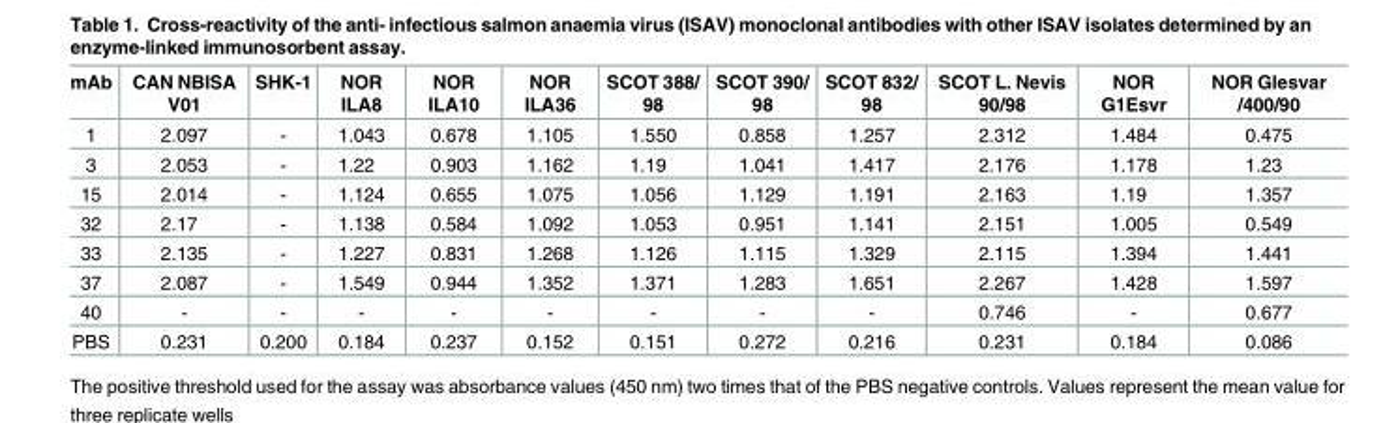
<table><thead><tr><td>mAb</td><td>CAN NBISA V01</td><td>SHK-1</td><td>NOR ILA8</td><td>NOR ILA10</td><td>NOR ILA36</td><td>SCOT 388/ 98</td><td>SCOT 390/ 98</td><td>SCOT 832/ 98</td><td>SCOT L. Nevis 90/98</td><td>NOR G1Esvr</td><td>NOR Glesvar /400/90</td></tr></thead><tbody><tr><td>1</td><td>2.097</td><td>-</td><td>1.043</td><td>0.678</td><td>1.105</td><td>1.550</td><td>0.858</td><td>1.257</td><td>2.312</td><td>1.484</td><td>0.475</td></tr><tr><td>3</td><td>2.053</td><td>-</td><td>1.22</td><td>0.903</td><td>1.162</td><td>1.19</td><td>1.041</td><td>1.417</td><td>2.176</td><td>1.178</td><td>1.23</td></tr><tr><td>15</td><td>2.014</td><td>-</td><td>1.124</td><td>0.655</td><td>1.075</td><td>1.056</td><td>1.129</td><td>1.191</td><td>2.163</td><td>1.19</td><td>1.357</td></tr><tr><td>32</td><td>2.17</td><td>-</td><td>1.138</td><td>0.584</td><td>1.092</td><td>1.053</td><td>0.951</td><td>1.141</td><td>2.151</td><td>1.005</td><td>0.549</td></tr><tr><td>33</td><td>2.135</td><td>-</td><td>1.227</td><td>0.831</td><td>1.268</td><td>1.126</td><td>1.115</td><td>1.329</td><td>2.115</td><td>1.394</td><td>1.441</td></tr><tr><td>37</td><td>2.087</td><td>-</td><td>1.549</td><td>0.944</td><td>1.352</td><td>1.371</td><td>1.283</td><td>1.651</td><td>2.267</td><td>1.428</td><td>1.597</td></tr><tr><td>40</td><td>-</td><td>-</td><td>-</td><td>-</td><td>-</td><td>-</td><td>-</td><td>-</td><td>0.746</td><td>-</td><td>0.677</td></tr><tr><td>PBS</td><td>0.231</td><td>0.200</td><td>0.184</td><td>0.237</td><td>0.152</td><td>0.151</td><td>0.272</td><td>0.216</td><td>0.231</td><td>0.184</td><td>0.086</td></tr></tbody></table>